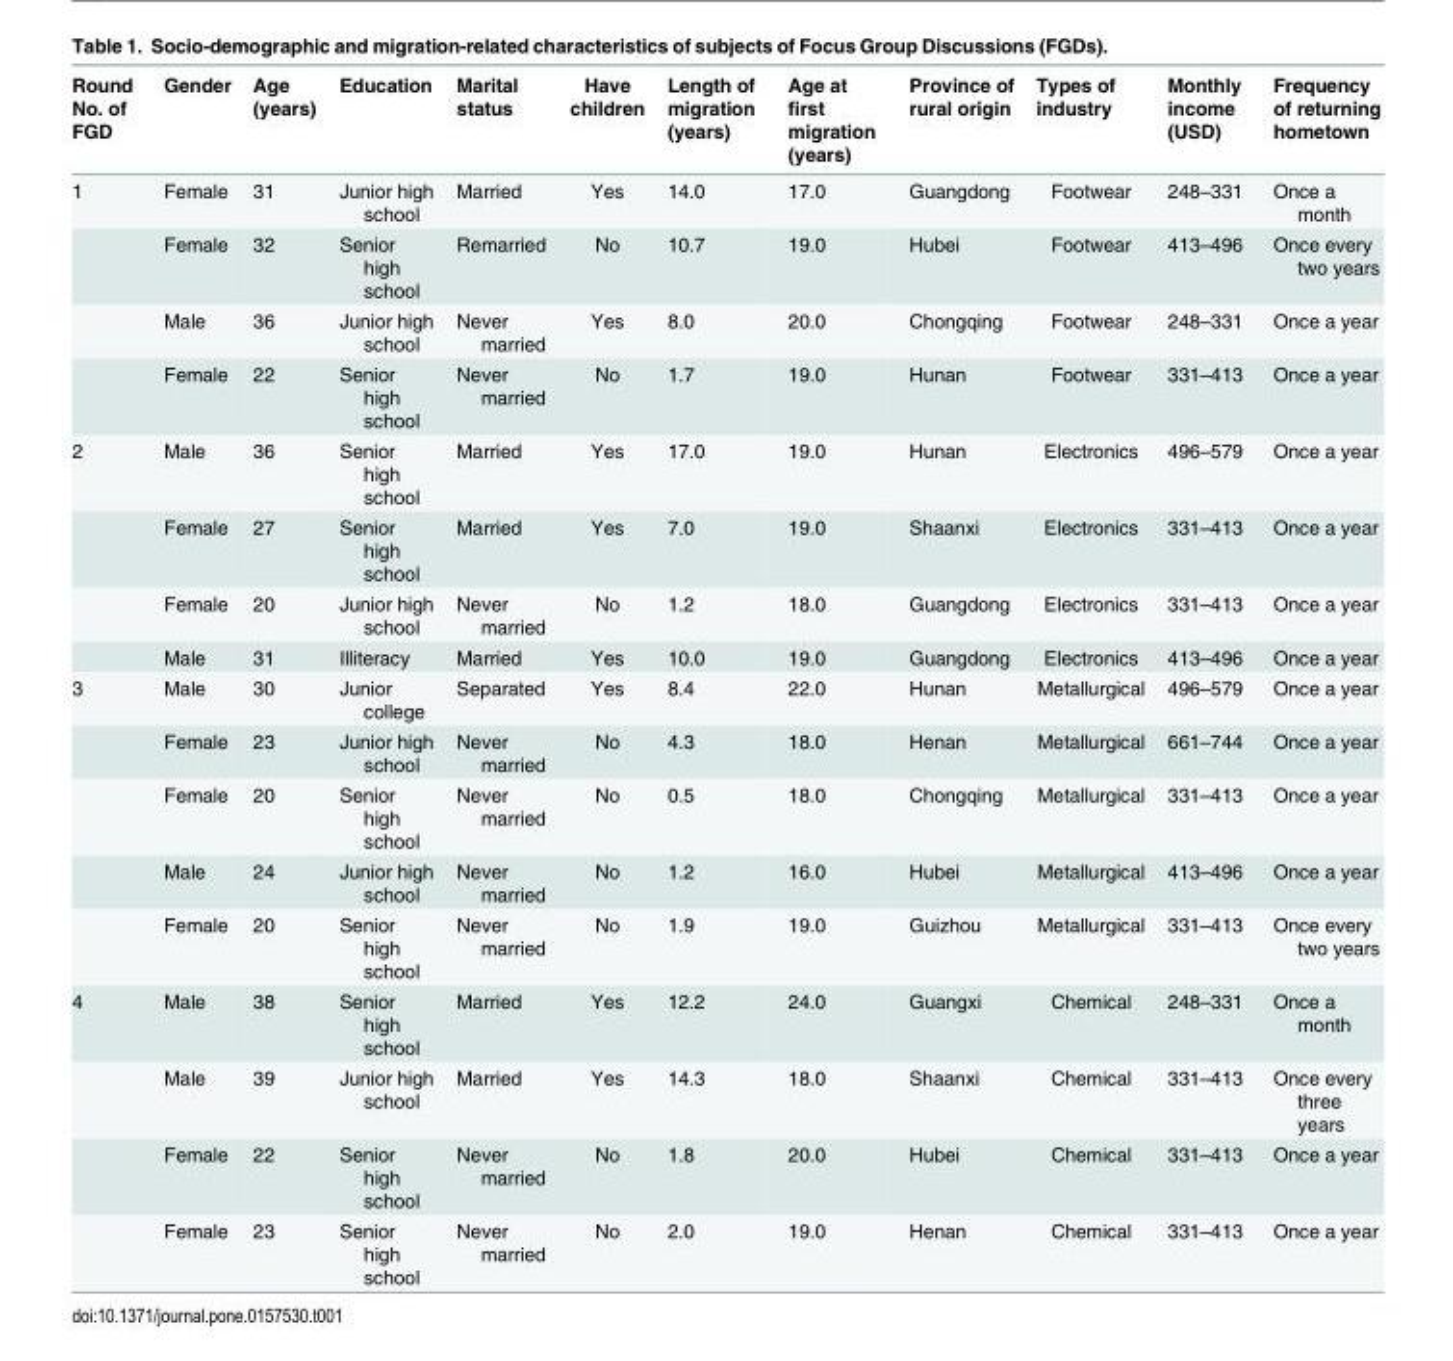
<table><thead><tr><td>Round No. of FGD</td><td>Gender</td><td>Age (years)</td><td>Education</td><td>Marital status</td><td>Have children</td><td>Length of migration (years)</td><td>Age at first migration (years)</td><td>Province of rural origin</td><td>Types of industry</td><td>Monthly income (USD)</td><td>Frequency of returning hometown</td></tr></thead><tbody><tr><td rowspan="4">1</td><td>Female</td><td>31</td><td>Junior high school</td><td>Married</td><td>Yes</td><td>14.0</td><td>17.0</td><td>Guangdong</td><td>Footwear</td><td>248–331</td><td>Once a month</td></tr><tr><td>Female</td><td>32</td><td>Senior high school</td><td>Remarried</td><td>No</td><td>10.7</td><td>19.0</td><td>Hubei</td><td>Footwear</td><td>413–496</td><td>Once every two years</td></tr><tr><td>Male</td><td>36</td><td>Junior high school</td><td>Never married</td><td>Yes</td><td>8.0</td><td>20.0</td><td>Chongqing</td><td>Footwear</td><td>248–331</td><td>Once a year</td></tr><tr><td>Female</td><td>22</td><td>Senior high school</td><td>Never married</td><td>No</td><td>1.7</td><td>19.0</td><td>Hunan</td><td>Footwear</td><td>331–413</td><td>Once a year</td></tr><tr><td rowspan="4">2</td><td>Male</td><td>36</td><td>Senior high school</td><td>Married</td><td>Yes</td><td>17.0</td><td>19.0</td><td>Hunan</td><td>Electronics</td><td>496–579</td><td>Once a year</td></tr><tr><td>Female</td><td>27</td><td>Senior high school</td><td>Married</td><td>Yes</td><td>7.0</td><td>19.0</td><td>Shaanxi</td><td>Electronics</td><td>331–413</td><td>Once a year</td></tr><tr><td>Female</td><td>20</td><td>Junior high school</td><td>Never married</td><td>No</td><td>1.2</td><td>18.0</td><td>Guangdong</td><td>Electronics</td><td>331–413</td><td>Once a year</td></tr><tr><td>Male</td><td>31</td><td>Illiteracy</td><td>Married</td><td>Yes</td><td>10.0</td><td>19.0</td><td>Guangdong</td><td>Electronics</td><td>413–496</td><td>Once a year</td></tr><tr><td rowspan="5">3</td><td>Male</td><td>30</td><td>Junior college</td><td>Separated</td><td>Yes</td><td>8.4</td><td>22.0</td><td>Hunan</td><td>Metallurgical</td><td>496–579</td><td>Once a year</td></tr><tr><td>Female</td><td>23</td><td>Junior high school</td><td>Never married</td><td>No</td><td>4.3</td><td>18.0</td><td>Henan</td><td>Metallurgical</td><td>661–744</td><td>Once a year</td></tr><tr><td>Female</td><td>20</td><td>Senior high school</td><td>Never married</td><td>No</td><td>0.5</td><td>18.0</td><td>Chongqing</td><td>Metallurgical</td><td>331–413</td><td>Once a year</td></tr><tr><td>Male</td><td>24</td><td>Junior high school</td><td>Never married</td><td>No</td><td>1.2</td><td>16.0</td><td>Hubei</td><td>Metallurgical</td><td>413–496</td><td>Once a year</td></tr><tr><td>Female</td><td>20</td><td>Senior high school</td><td>Never married</td><td>No</td><td>1.9</td><td>19.0</td><td>Guizhou</td><td>Metallurgical</td><td>331–413</td><td>Once every two years</td></tr><tr><td rowspan="4">4</td><td>Male</td><td>38</td><td>Senior high school</td><td>Married</td><td>Yes</td><td>12.2</td><td>24.0</td><td>Guangxi</td><td>Chemical</td><td>248–331</td><td>Once a month</td></tr><tr><td>Male</td><td>39</td><td>Junior high school</td><td>Married</td><td>Yes</td><td>14.3</td><td>18.0</td><td>Shaanxi</td><td>Chemical</td><td>331–413</td><td>Once every three years</td></tr><tr><td>Female</td><td>22</td><td>Senior high school</td><td>Never married</td><td>No</td><td>1.8</td><td>20.0</td><td>Hubei</td><td>Chemical</td><td>331–413</td><td>Once a year</td></tr><tr><td>Female</td><td>23</td><td>Senior high school</td><td>Never married</td><td>No</td><td>2.0</td><td>19.0</td><td>Henan</td><td>Chemical</td><td>331–413</td><td>Once a year</td></tr></tbody></table>